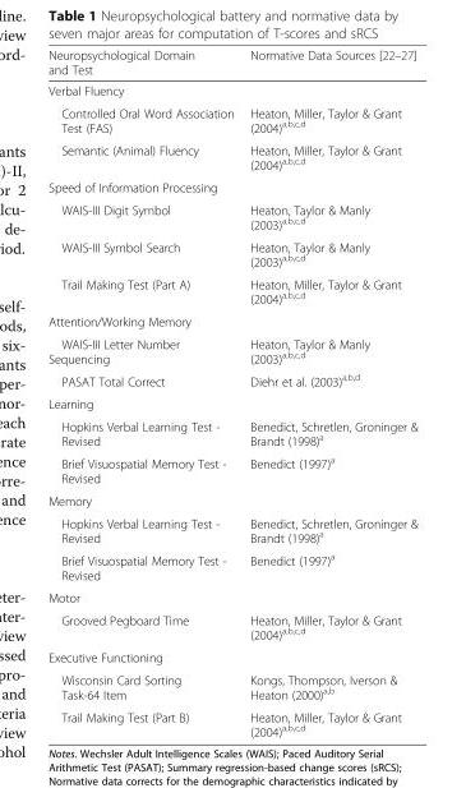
<table><thead><tr><td>Neuropsychological Domain and Test</td><td>Normative Data Sources [22–27]</td></tr></thead><tbody><tr><td colspan="2">Verbal Fluency</td></tr><tr><td>Controlled Oral Word Association Test (FAS)</td><td>Heaton, Miller, Taylor &amp; Grant (2004)<sup>a,b,c,d</sup></td></tr><tr><td>Semantic (Animal) Fluency</td><td>Heaton, Miller, Taylor &amp; Grant (2004)<sup>a,b,c,d</sup></td></tr><tr><td colspan="2">Speed of Information Processing</td></tr><tr><td>WAIS-III Digit Symbol</td><td>Heaton, Taylor &amp; Manly (2003)<sup>a,b,c,d</sup></td></tr><tr><td>WAIS-III Symbol Search</td><td>Heaton, Taylor &amp; Manly (2003)<sup>a,b,c,d</sup></td></tr><tr><td>Trail Making Test (Part A)</td><td>Heaton, Miller, Taylor &amp; Grant (2004)<sup>a,b,c,d</sup></td></tr><tr><td colspan="2">Attention/Working Memory</td></tr><tr><td>WAIS-III Letter Number Sequencing</td><td>Heaton, Taylor &amp; Manly (2003)<sup>a,b,c,d</sup></td></tr><tr><td>PASAT Total Correct</td><td>Diehr et al. (2003)<sup>a,b,d</sup></td></tr><tr><td colspan="2">Learning</td></tr><tr><td>Hopkins Verbal Learning Test - Revised</td><td>Benedict, Schretlen, Groninger &amp; Brandt (1998)<sup>a</sup></td></tr><tr><td>Brief Visuospatial Memory Test - Revised</td><td>Benedict (1997)<sup>a</sup></td></tr><tr><td colspan="2">Memory</td></tr><tr><td>Hopkins Verbal Learning Test - Revised</td><td>Benedict, Schretlen, Groninger &amp; Brandt (1998)<sup>a</sup></td></tr><tr><td>Brief Visuospatial Memory Test - Revised</td><td>Benedict (1997)<sup>a</sup></td></tr><tr><td colspan="2">Motor</td></tr><tr><td>Grooved Pegboard Time</td><td>Heaton, Miller, Taylor &amp; Grant (2004)<sup>a,b,c,d</sup></td></tr><tr><td colspan="2">Executive Functioning</td></tr><tr><td>Wisconsin Card Sorting Task-64 Item</td><td>Kongs, Thompson, Iverson &amp; Heaton (2000)<sup>a,b</sup></td></tr><tr><td>Trail Making Test (Part B)</td><td>Heaton, Miller, Taylor &amp; Grant (2004)<sup>a,b,c,d</sup></td></tr></tbody></table>